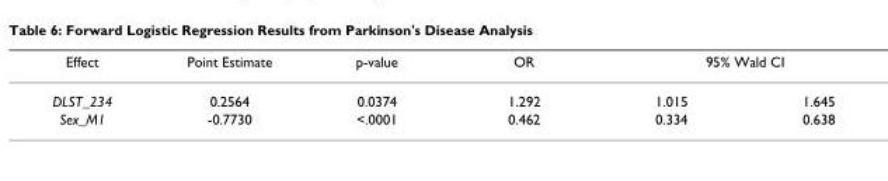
<table><thead><tr><td rowspan="2">Effect DLST_234</td><td rowspan="2">Point Estimate 0.2564</td><td rowspan="2">p-value 0.0374</td><td rowspan="2">OR 1.292</td><td colspan="2">95% Wald CI</td></tr><tr><td>1.015</td><td>1.645</td></tr></thead><tbody><tr><td>Sex_M1</td><td>-0.7730</td><td>&lt;.0001</td><td>0.462</td><td>0.334</td><td>0.638</td></tr></tbody></table>